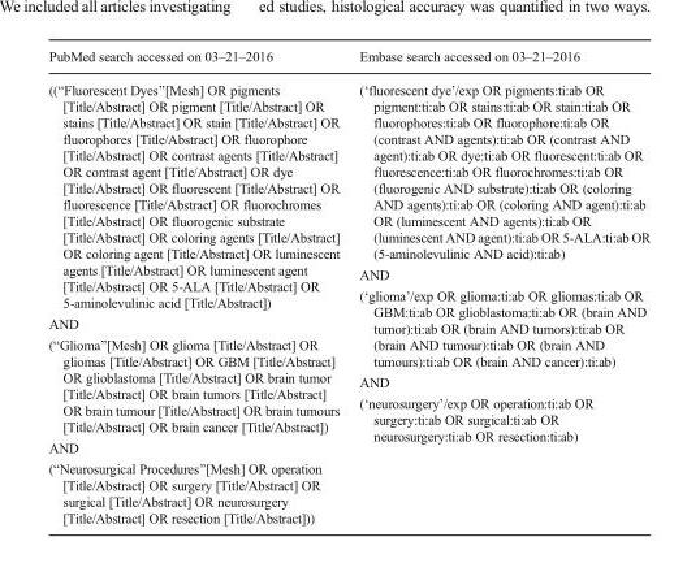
<table><thead><tr><td>PubMed search accessed on 03–21–2016</td><td>Embase search accessed on 03–21–2016</td></tr></thead><tbody><tr><td>((“Fluorescent Dyes”[Mesh] OR pigments [Title/Abstract] OR pigment [Title/Abstract] OR stains [Title/Abstract] OR stain [Title/Abstract] OR fluorophores [Title/Abstract] OR fluorophore [Title/Abstract] OR contrast agents [Title/Abstract] OR contrast agent [Title/Abstract] OR dye [Title/Abstract] OR fluorescent [Title/Abstract] OR fluorescence [Title/Abstract] OR fluorochromes [Title/Abstract] OR fluorogenic substrate [Title/Abstract] OR coloring agents [Title/Abstract] OR coloring agent [Title/Abstract] OR luminescent agents [Title/Abstract] OR luminescent agent [Title/Abstract] OR 5-ALA [Title/Abstract] OR 5-aminolevulinic acid [Title/Abstract]) AND (“Glioma”[Mesh] OR glioma [Title/Abstract] OR gliomas [Title/Abstract] OR GBM [Title/Abstract] OR glioblastoma [Title/Abstract] OR brain tumor [Title/Abstract] OR brain tumors [Title/Abstract] OR brain tumour [Title/Abstract] OR brain tumours [Title/Abstract] OR brain cancer [Title/Abstract]) AND (“Neurosurgical Procedures”[Mesh] OR operation [Title/Abstract] OR surgery [Title/Abstract] OR surgical [Title/Abstract] OR neurosurgery [Title/Abstract] OR resection [Title/Abstract]))</td><td>(‘fluorescent dye’/exp OR pigments:ti:ab OR pigment:ti:ab OR stains:ti:ab OR stain:ti:ab OR fluorophores:ti:ab OR fluorophore:ti:ab OR (contrast AND agents):ti:ab OR (contrast AND agent):ti:ab OR dye:ti:ab OR fluorescent:ti:ab OR fluorescence:ti:ab OR fluorochromes:ti:ab OR (fluorogenic AND substrate):ti:ab OR (coloring AND agents):ti:ab OR (coloring AND agent):ti:ab OR (luminescent AND agents):ti:ab OR (luminescent AND agent):ti:ab OR 5-ALA:ti:ab OR (5-aminolevulinic AND acid):ti:ab) AND (‘glioma’/exp OR glioma:ti:ab OR gliomas:ti:ab OR GBM:ti:ab OR glioblastoma:ti:ab OR (brain AND tumor):ti:ab OR (brain AND tumors):ti:ab OR (brain AND tumour):ti:ab OR (brain AND tumours):ti:ab OR (brain AND cancer):ti:ab) AND (‘neurosurgery’/exp OR operation:ti:ab OR surgery:ti:ab OR surgical:ti:ab OR neurosurgery:ti:ab OR resection:ti:ab)</td></tr></tbody></table>